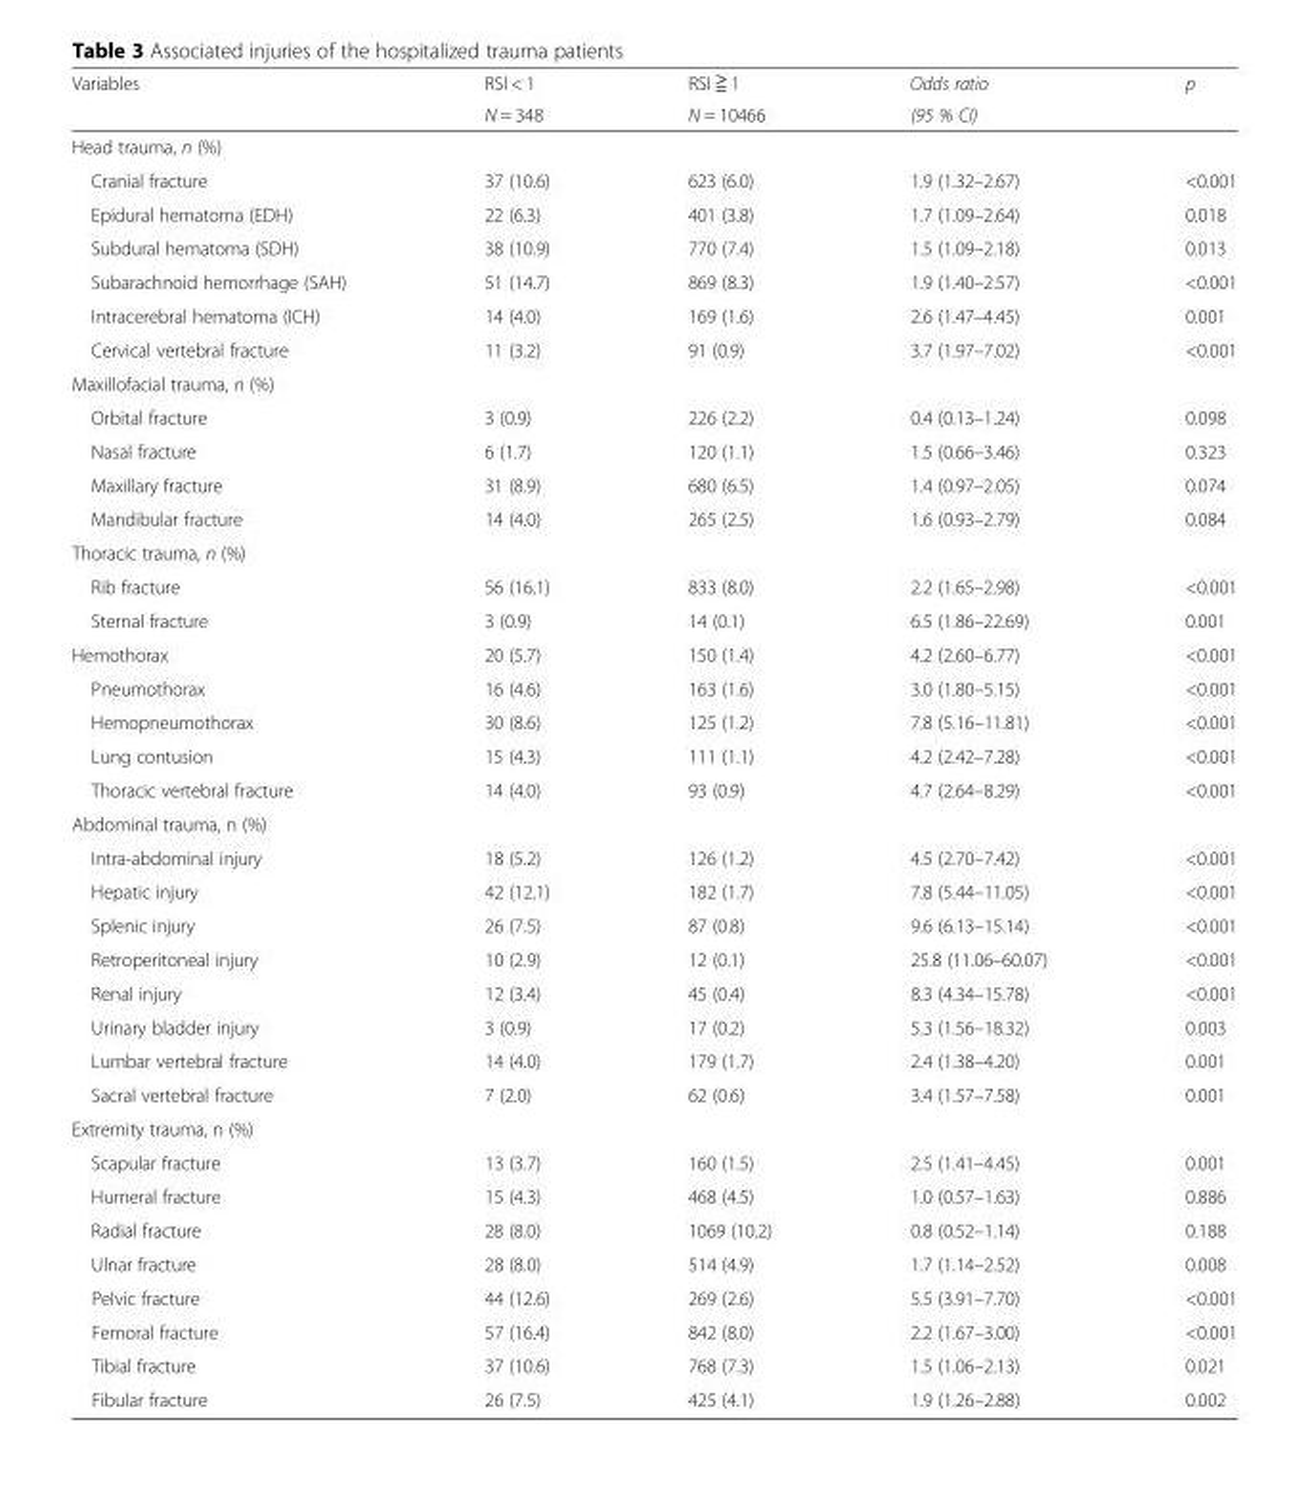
<table><thead><tr><td rowspan="2">Variables</td><td rowspan="2">RSI &lt; 1 N = 348</td><td rowspan="2">RSI ≧ 1 N = 10466</td><td rowspan="2">Odds ratio (95 % CI)</td><td rowspan="2">p</td></tr><tr></tr></thead><tbody><tr><td colspan="5">Head trauma, n (%)</td></tr><tr><td>Cranial fracture</td><td>37 (10.6)</td><td>623 (6.0)</td><td>1.9 (1.32–2.67)</td><td>&lt;0.001</td></tr><tr><td>Epidural hematoma (EDH)</td><td>22 (6.3)</td><td>401 (3.8)</td><td>1.7 (1.09–2.64)</td><td>0.018</td></tr><tr><td>Subdural hematoma (SDH)</td><td>38 (10.9)</td><td>770 (7.4)</td><td>1.5 (1.09–2.18)</td><td>0.013</td></tr><tr><td>Subarachnoid hemorrhage (SAH)</td><td>51 (14.7)</td><td>869 (8.3)</td><td>1.9 (1.40–2.57)</td><td>&lt;0.001</td></tr><tr><td>Intracerebral hematoma (ICH)</td><td>14 (4.0)</td><td>169 (1.6)</td><td>2.6 (1.47–4.45)</td><td>0.001</td></tr><tr><td>Cervical vertebral fracture</td><td>11 (3.2)</td><td>91 (0.9)</td><td>3.7 (1.97–7.02)</td><td>&lt;0.001</td></tr><tr><td colspan="5">Maxillofacial trauma, n (%)</td></tr><tr><td>Orbital fracture</td><td>3 (0.9)</td><td>226 (2.2)</td><td>0.4 (0.13–1.24)</td><td>0.098</td></tr><tr><td>Nasal fracture</td><td>6 (1.7)</td><td>120 (1.1)</td><td>1.5 (0.66–3.46)</td><td>0.323</td></tr><tr><td>Maxillary fracture</td><td>31 (8.9)</td><td>680 (6.5)</td><td>1.4 (0.97–2.05)</td><td>0.074</td></tr><tr><td>Mandibular fracture</td><td>14 (4.0)</td><td>265 (2.5)</td><td>1.6 (0.93–2.79)</td><td>0.084</td></tr><tr><td colspan="5">Thoracic trauma, n (%)</td></tr><tr><td>Rib fracture</td><td>56 (16.1)</td><td>833 (8.0)</td><td>2.2 (1.65–2.98)</td><td>&lt;0.001</td></tr><tr><td>Sternal fracture</td><td>3 (0.9)</td><td>14 (0.1)</td><td>6.5 (1.86–22.69)</td><td>0.001</td></tr><tr><td>Hemothorax</td><td>20 (5.7)</td><td>150 (1.4)</td><td>4.2 (2.60–6.77)</td><td>&lt;0.001</td></tr><tr><td>Pneumothorax</td><td>16 (4.6)</td><td>163 (1.6)</td><td>3.0 (1.80–5.15)</td><td>&lt;0.001</td></tr><tr><td>Hemopneumothorax</td><td>30 (8.6)</td><td>125 (1.2)</td><td>7.8 (5.16–11.81)</td><td>&lt;0.001</td></tr><tr><td>Lung contusion</td><td>15 (4.3)</td><td>111 (1.1)</td><td>4.2 (2.42–7.28)</td><td>&lt;0.001</td></tr><tr><td>Thoracic vertebral fracture</td><td>14 (4.0)</td><td>93 (0.9)</td><td>4.7 (2.64–8.29)</td><td>&lt;0.001</td></tr><tr><td colspan="5">Abdominal trauma, n (%)</td></tr><tr><td>Intra-abdominal injury</td><td>18 (5.2)</td><td>126 (1.2)</td><td>4.5 (2.70–7.42)</td><td>&lt;0.001</td></tr><tr><td>Hepatic injury</td><td>42 (12.1)</td><td>182 (1.7)</td><td>7.8 (5.44–11.05)</td><td>&lt;0.001</td></tr><tr><td>Splenic injury</td><td>26 (7.5)</td><td>87 (0.8)</td><td>9.6 (6.13–15.14)</td><td>&lt;0.001</td></tr><tr><td>Retroperitoneal injury</td><td>10 (2.9)</td><td>12 (0.1)</td><td>25.8 (11.06–60.07)</td><td>&lt;0.001</td></tr><tr><td>Renal injury</td><td>12 (3.4)</td><td>45 (0.4)</td><td>8.3 (4.34–15.78)</td><td>&lt;0.001</td></tr><tr><td>Urinary bladder injury</td><td>3 (0.9)</td><td>17 (0.2)</td><td>5.3 (1.56–18.32)</td><td>0.003</td></tr><tr><td>Lumbar vertebral fracture</td><td>14 (4.0)</td><td>179 (1.7)</td><td>2.4 (1.38–4.20)</td><td>0.001</td></tr><tr><td>Sacral vertebral fracture</td><td>7 (2.0)</td><td>62 (0.6)</td><td>3.4 (1.57–7.58)</td><td>0.001</td></tr><tr><td colspan="5">Extremity trauma, n (%)</td></tr><tr><td>Scapular fracture</td><td>13 (3.7)</td><td>160 (1.5)</td><td>2.5 (1.41–4.45)</td><td>0.001</td></tr><tr><td>Humeral fracture</td><td>15 (4.3)</td><td>468 (4.5)</td><td>1.0 (0.57–1.63)</td><td>0.886</td></tr><tr><td>Radial fracture</td><td>28 (8.0)</td><td>1069 (10.2)</td><td>0.8 (0.52–1.14)</td><td>0.188</td></tr><tr><td>Ulnar fracture</td><td>28 (8.0)</td><td>514 (4.9)</td><td>1.7 (1.14–2.52)</td><td>0.008</td></tr><tr><td>Pelvic fracture</td><td>44 (12.6)</td><td>269 (2.6)</td><td>5.5 (3.91–7.70)</td><td>&lt;0.001</td></tr><tr><td>Femoral fracture</td><td>57 (16.4)</td><td>842 (8.0)</td><td>2.2 (1.67–3.00)</td><td>&lt;0.001</td></tr><tr><td>Tibial fracture</td><td>37 (10.6)</td><td>768 (7.3)</td><td>1.5 (1.06–2.13)</td><td>0.021</td></tr><tr><td>Fibular fracture</td><td>26 (7.5)</td><td>425 (4.1)</td><td>1.9 (1.26–2.88)</td><td>0.002</td></tr></tbody></table>